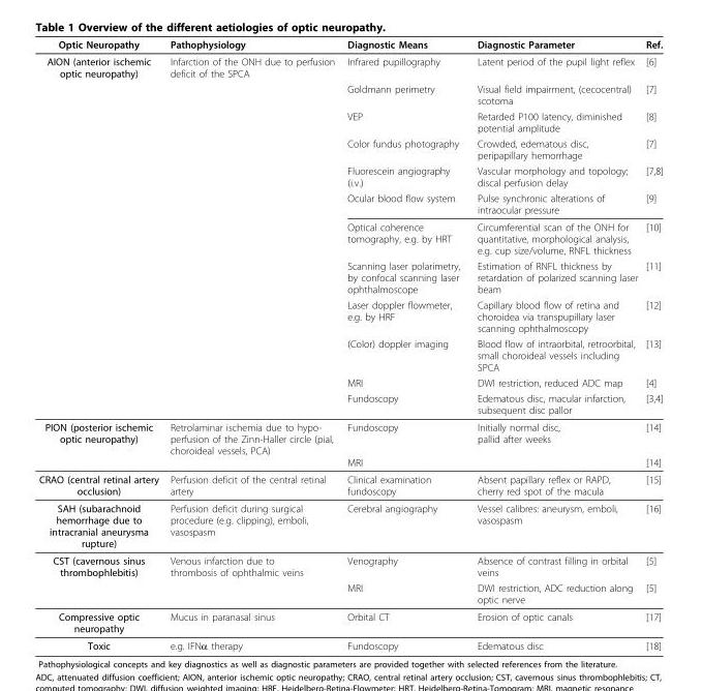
<table><thead><tr><td>Optic Neuropathy</td><td>Pathophysiology</td><td>Diagnostic Means</td><td>Diagnostic Parameter</td><td>Ref.</td></tr></thead><tbody><tr><td rowspan="12">AION (anterior ischemic optic neuropathy)</td><td>Infarction of the ONH due to perfusion deficit of the SPCA</td><td>Infrared pupillography</td><td>Latent period of the pupil light reflex</td><td>[6]</td></tr><tr><td></td><td>Goldmann perimetry</td><td>Visual field impairment, (cecocentral) scotoma</td><td>[7]</td></tr><tr><td></td><td>VEP</td><td>Retarded P100 latency, diminished potential amplitude</td><td>[8]</td></tr><tr><td></td><td>Color fundus photography</td><td>Crowded, edematous disc, peripapillary hemorrhage</td><td>[7]</td></tr><tr><td></td><td>Fluorescein angiography (i.v.)</td><td>Vascular morphology and topology; discal perfusion delay</td><td>[7,8]</td></tr><tr><td></td><td>Ocular blood flow system</td><td>Pulse synchronic alterations of intraocular pressure</td><td>[9]</td></tr><tr><td></td><td>Optical coherence tomography, e.g. by HRT</td><td>Circumferential scan of the ONH for quantitative, morphological analysis, e.g. cup size/volume, RNFL thickness</td><td>[10]</td></tr><tr><td></td><td>Scanning laser polarimetry, by confocal scanning laser ophthalmoscope</td><td>Estimation of RNFL thickness by retardation of polarized scanning laser beam</td><td>[11]</td></tr><tr><td></td><td>Laser doppler flowmeter, e.g. by HRF</td><td>Capillary blood flow of retina and choroidea via transpupillary laser scanning ophthalmoscopy</td><td>[12]</td></tr><tr><td></td><td>(Color) doppler imaging</td><td>Blood flow of intraorbital, retroorbital, small choroideal vessels including SPCA</td><td>[13]</td></tr><tr><td></td><td>MRI</td><td>DWI restriction, reduced ADC map</td><td>[4]</td></tr><tr><td></td><td>Fundoscopy</td><td>Edematous disc, macular infarction, subsequent disc pallor</td><td>[3,4]</td></tr><tr><td rowspan="2">PION (posterior ischemic optic neuropathy)</td><td>Retrolaminar ischemia due to hypo- perfusion of the Zinn-Haller circle (pial, choroideal vessels, PCA)</td><td>Fundoscopy</td><td>Initially normal disc, pallid after weeks</td><td>[14]</td></tr><tr><td></td><td>MRI</td><td></td><td>[14]</td></tr><tr><td>CRAO (central retinal artery occlusion)</td><td>Perfusion deficit of the central retinal artery</td><td>Clinical examination fundoscopy</td><td>Absent papillary reflex or RAPD, cherry red spot of the macula</td><td>[15]</td></tr><tr><td>SAH (subarachnoid hemorrhage due to intracranial aneurysma rupture)</td><td>Perfusion deficit during surgical procedure (e.g. clipping), emboli, vasospasm</td><td>Cerebral angiography</td><td>Vessel calibres: aneurysm, emboli, vasospasm</td><td>[16]</td></tr><tr><td rowspan="2">CST (cavernous sinus thrombophlebitis)</td><td>Venous infarction due to thrombosis of ophthalmic veins</td><td>Venography</td><td>Absence of contrast filling in orbital veins</td><td>[5]</td></tr><tr><td></td><td>MRI</td><td>DWI restriction, ADC reduction along optic nerve</td><td>[5]</td></tr><tr><td>Compressive optic neuropathy</td><td>Mucus in paranasal sinus</td><td>Orbital CT</td><td>Erosion of optic canals</td><td>[17]</td></tr><tr><td>Toxic</td><td>e.g. IFNα therapy</td><td>Fundoscopy</td><td>Edematous disc</td><td>[18]</td></tr></tbody></table>